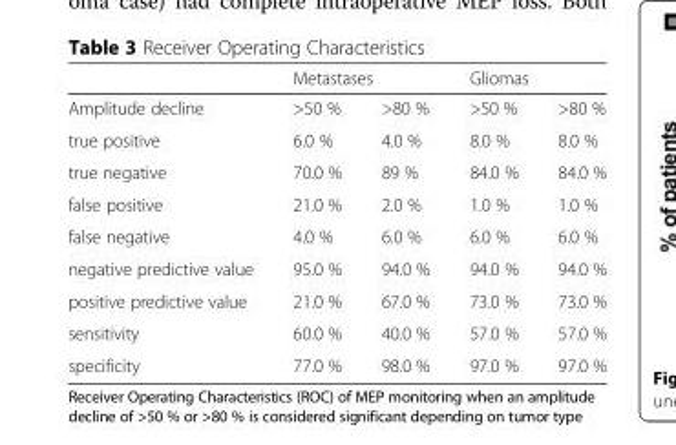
<table><thead><tr><td rowspan="2">Amplitude decline</td><td colspan="2">Metastases</td><td colspan="2">Gliomas</td></tr><tr><td>&gt;50 %</td><td>&gt;80 %</td><td>&gt;50 %</td><td>&gt;80 %</td></tr></thead><tbody><tr><td>true positive</td><td>6.0 %</td><td>4.0 %</td><td>8.0 %</td><td>8.0 %</td></tr><tr><td>true negative</td><td>70.0 %</td><td>89 %</td><td>84.0 %</td><td>84.0 %</td></tr><tr><td>false positive</td><td>21.0 %</td><td>2.0 %</td><td>1.0 %</td><td>1.0 %</td></tr><tr><td>false negative</td><td>4.0 %</td><td>6.0 %</td><td>6.0 %</td><td>6.0 %</td></tr><tr><td>negative predictive value</td><td>95.0 %</td><td>94.0 %</td><td>94.0 %</td><td>94.0 %</td></tr><tr><td>positive predictive value</td><td>21.0 %</td><td>67.0 %</td><td>73.0 %</td><td>73.0 %</td></tr><tr><td>sensitivity</td><td>60.0 %</td><td>40.0 %</td><td>57.0 %</td><td>57.0 %</td></tr><tr><td>specificity</td><td>77.0 %</td><td>98.0 %</td><td>97.0 %</td><td>97.0 %</td></tr></tbody></table>